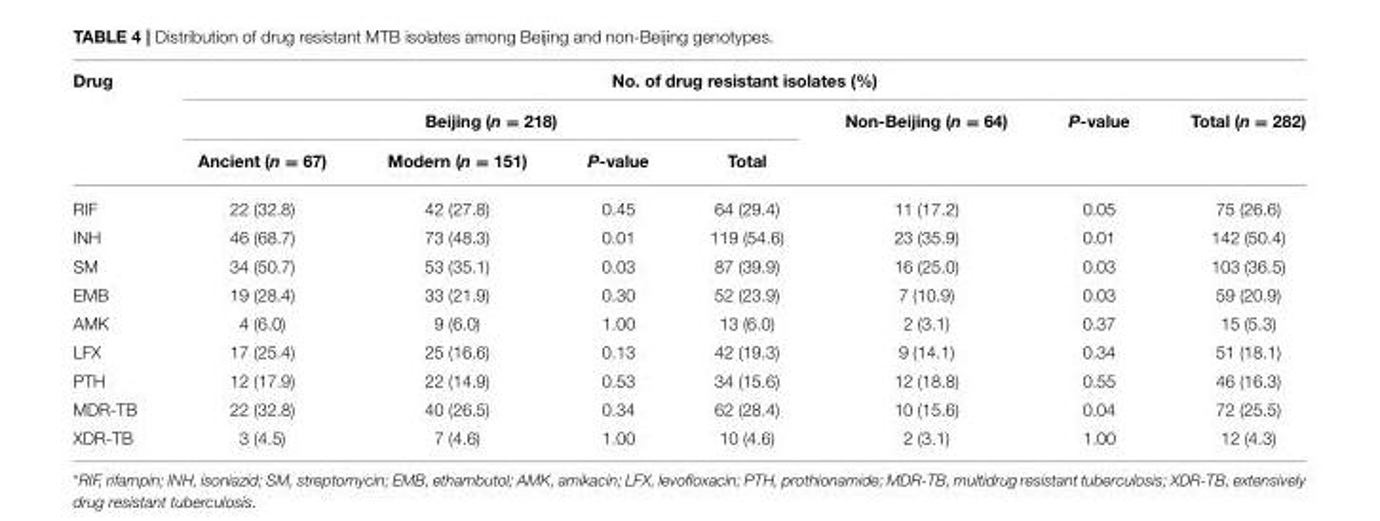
<table><thead><tr><td rowspan="3">Drug</td><td colspan="7">No. of drug resistant isolates (%)</td></tr><tr><td colspan="4">Beijing (n = 218)</td><td rowspan="2">Non-Beijing (n = 64)</td><td rowspan="2">P-value</td><td rowspan="2">Total (n = 282)</td></tr><tr><td>Ancient (n = 67)</td><td>Modern (n = 151)</td><td>P-value</td><td>Total</td></tr></thead><tbody><tr><td>RIF</td><td>22 (32.8)</td><td>42 (27.8)</td><td>0.45</td><td>64 (29.4)</td><td>11 (17.2)</td><td>0.05</td><td>75 (26.6)</td></tr><tr><td>INH</td><td>46 (68.7)</td><td>73 (48.3)</td><td>0.01</td><td>119 (54.6)</td><td>23 (35.9)</td><td>0.01</td><td>142 (50.4)</td></tr><tr><td>SM</td><td>34 (50.7)</td><td>53 (35.1)</td><td>0.03</td><td>87 (39.9)</td><td>16 (25.0)</td><td>0.03</td><td>103 (36.5)</td></tr><tr><td>EMB</td><td>19 (28.4)</td><td>33 (21.9)</td><td>0.30</td><td>52 (23.9)</td><td>7 (10.9)</td><td>0.03</td><td>59 (20.9)</td></tr><tr><td>AMK</td><td>4 (6.0)</td><td>9 (6.0)</td><td>1.00</td><td>13 (6.0)</td><td>2 (3.1)</td><td>0.37</td><td>15 (5.3)</td></tr><tr><td>LFX</td><td>17 (25.4)</td><td>25 (16.6)</td><td>0.13</td><td>42 (19.3)</td><td>9 (14.1)</td><td>0.34</td><td>51 (18.1)</td></tr><tr><td>PTH</td><td>12 (17.9)</td><td>22 (14.9)</td><td>0.53</td><td>34 (15.6)</td><td>12 (18.8)</td><td>0.55</td><td>46 (16.3)</td></tr><tr><td>MDR-TB</td><td>22 (32.8)</td><td>40 (26.5)</td><td>0.34</td><td>62 (28.4)</td><td>10 (15.6)</td><td>0.04</td><td>72 (25.5)</td></tr><tr><td>XDR-TB</td><td>3 (4.5)</td><td>7 (4.6)</td><td>1.00</td><td>10 (4.6)</td><td>2 (3.1)</td><td>1.00</td><td>12 (4.3)</td></tr></tbody></table>